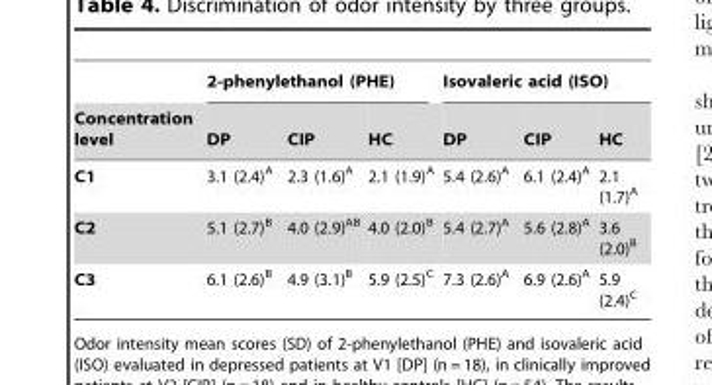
<table><thead><tr><td rowspan="2">Concentration level</td><td colspan="3">2-phenylethanol (PHE)</td><td colspan="3">Isovaleric acid (ISO)</td></tr><tr><td>DP</td><td>CIP</td><td>HC</td><td>DP</td><td>CIP</td><td>HC</td></tr></thead><tbody><tr><td>C1</td><td>3.1 (2.4)<sup>A</sup></td><td>2.3 (1.6)<sup>A</sup></td><td>2.1 (1.9)<sup>A</sup></td><td>5.4 (2.6)<sup>A</sup></td><td>6.1 (2.4)<sup>A</sup></td><td>2.1 (1.7)<sup>A</sup></td></tr><tr><td>C2</td><td>5.1 (2.7)<sup>B</sup></td><td>4.0 (2.9)<sup>AB</sup></td><td>4.0 (2.0)<sup>B</sup></td><td>5.4 (2.7)<sup>A</sup></td><td>5.6 (2.8)<sup>A</sup></td><td>3.6 (2.0)<sup>B</sup></td></tr><tr><td>C3</td><td>6.1 (2.6)<sup>B</sup></td><td>4.9 (3.1)<sup>B</sup></td><td>5.9 (2.5)<sup>C</sup></td><td>7.3 (2.6)<sup>A</sup></td><td>6.9 (2.6)<sup>A</sup></td><td>5.9 (2.4)<sup>C</sup></td></tr></tbody></table>